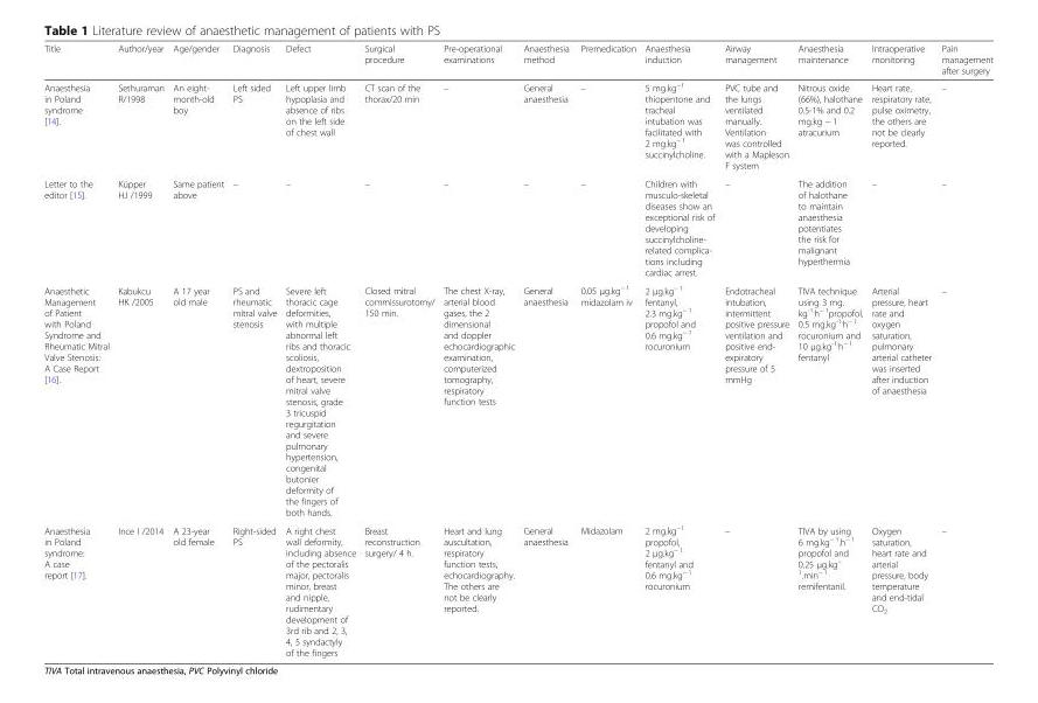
<table><thead><tr><td>Title</td><td>Author/year</td><td>Age/gender</td><td>Diagnosis</td><td>Defect</td><td>Surgical procedure</td><td>Pre-operational examinations</td><td>Anaesthesia method</td><td>Premedication</td><td>Anaesthesia induction</td><td>Airway management</td><td>Anaesthesia maintenance</td><td>Intraoperative monitoring</td><td>Pain management after surgery</td></tr></thead><tbody><tr><td>Anaesthesia in Poland syndrome [14].</td><td>Sethuraman R/1998</td><td>An eight- month-old boy</td><td>Left sided PS</td><td>Left upper limb hypoplasia and absence of ribs on the left side of chest wall</td><td>CT scan of the thorax/20 min</td><td>–</td><td>General anaesthesia</td><td>–</td><td>5 mg.kg<sup>−1</sup> thiopentone and tracheal intubation was facilitated with 2 mg.kg<sup>− 1</sup> succinylcholine.</td><td>PVC tube and the lungs ventilated manually. Ventilation was controlled with a Mapleson F system</td><td>Nitrous oxide (66%), halothane 0.5-1% and 0.2 mg.kg − 1 atracurium</td><td>Heart rate, respiratory rate, pulse oximetry, the others are not be clearly reported.</td><td>–</td></tr><tr><td>Letter to the editor [15].</td><td>Küpper HJ /1999</td><td>Same patient above</td><td>–</td><td>–</td><td>–</td><td>–</td><td>–</td><td>–</td><td>Children with musculo-skeletal diseases show an exceptional risk of developing succinylcholine- related complica- tions including cardiac arrest.</td><td>–</td><td>The addition of halothane to maintain anaesthesia potentiates the risk for malignant hyperthermia</td><td>–</td><td>–</td></tr><tr><td>Anaesthetic Management of Patient with Poland Syndrome and Rheumatic Mitral Valve Stenosis: A Case Report [16].</td><td>Kabukcu HK /2005</td><td>A 17 year old male</td><td>PS and rheumatic mitral valve stenosis</td><td>Severe left thoracic cage deformities, with multiple abnormal left ribs and thoracic scoliosis, dextroposition of heart, severe mitral valve stenosis, grade 3 tricuspid regurgitation and severe pulmonary hypertension, congenital butonier deformity of the fingers of both hands.</td><td>Closed mitral commissurotomy/ 150 min.</td><td>The chest X-ray, arterial blood gases, the 2 dimensional and doppler echocardiographic examination, computerized tomography, respiratory function tests</td><td>General anaesthesia</td><td>0.05 μg.kg<sup>− 1</sup> midazolam iv</td><td>2 μg.kg<sup>− 1</sup> fentanyl, 2.3 mg.kg<sup>− 1</sup> propofol and 0.6 mg.kg<sup>− 1</sup> rocuronium</td><td>Endotracheal intubation, intermittent positive pressure ventilation and positive end- expiratory pressure of 5 mmHg</td><td>TIVA technique using 3 mg. kg<sup>-1.</sup>h<sup>− 1</sup>propofol, 0.5 mg.kg<sup>-1.</sup>h<sup>− 1</sup> rocuronium and 10 μg.kg<sup>-1.</sup>h<sup>− 1</sup> fentanyl</td><td>Arterial pressure, heart rate and oxygen saturation, pulmonary arterial catheter was inserted after induction of anaesthesia</td><td>–</td></tr><tr><td>Anaesthesia in Poland syndrome: A case report [17].</td><td>Ince I /2014</td><td>A 23-year old female</td><td>Right-sided PS</td><td>A right chest wall deformity, including absence of the pectoralis major, pectoralis minor, breast and nipple, rudimentary development of 3rd rib and 2, 3, 4, 5 syndactyly of the fingers</td><td>Breast reconstruction surgery/ 4 h.</td><td>Heart and lung auscultation, respiratory function tests, echocardiography. The others are not be clearly reported.</td><td>General anaesthesia</td><td>Midazolam</td><td>2 mg.kg<sup>−1</sup> propofol, 2 μg.kg<sup>− 1</sup> fentanyl and 0.6 mg.kg<sup>− 1</sup> rocuronium</td><td>–</td><td>TIVA by using 6 mg.kg<sup>− 1</sup>.h<sup>− 1</sup> propofol and 0.25 μg.kg<sup>− 1</sup>.min<sup>− 1</sup> remifentanil.</td><td>Oxygen saturation, heart rate and arterial pressure, body temperature and end-tidal CO<sub>2</sub></td><td>–</td></tr></tbody></table>